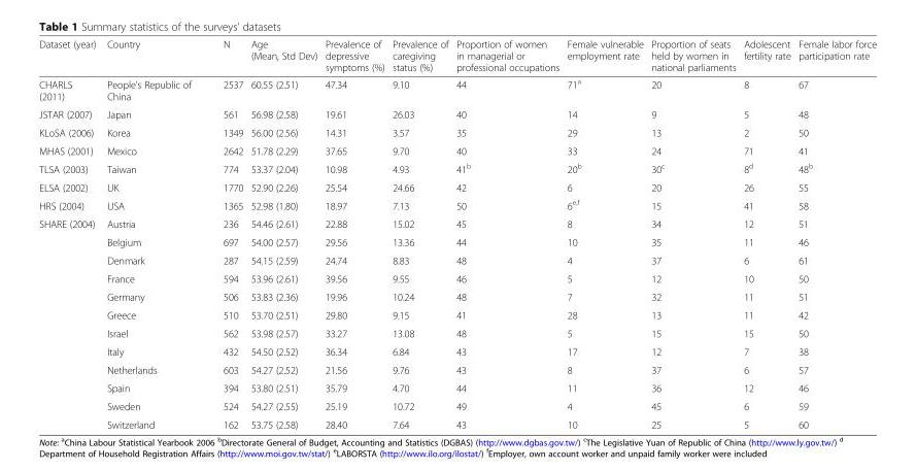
<table><thead><tr><td>Dataset (year)</td><td>Country</td><td>N</td><td>Age (Mean, Std Dev)</td><td>Prevalence of depressive symptoms (%)</td><td>Prevalence of caregiving status (%)</td><td>Proportion of women in managerial or professional occupations</td><td>Female vulnerable employment rate</td><td>Proportion of seats held by women in national parliaments</td><td>Adolescent fertility rate</td><td>Female labor force participation rate</td></tr></thead><tbody><tr><td>CHARLS (2011)</td><td>People’s Republic of China</td><td>2537</td><td>60.55 (2.51)</td><td>47.34</td><td>9.10</td><td>44</td><td>71<sup>a</sup></td><td>20</td><td>8</td><td>67</td></tr><tr><td>JSTAR (2007)</td><td>Japan</td><td>561</td><td>56.98 (2.58)</td><td>19.61</td><td>26.03</td><td>40</td><td>14</td><td>9</td><td>5</td><td>48</td></tr><tr><td>KLoSA (2006)</td><td>Korea</td><td>1349</td><td>56.00 (2.56)</td><td>14.31</td><td>3.57</td><td>35</td><td>29</td><td>13</td><td>2</td><td>50</td></tr><tr><td>MHAS (2001)</td><td>Mexico</td><td>2642</td><td>51.78 (2.29)</td><td>37.65</td><td>9.70</td><td>40</td><td>33</td><td>24</td><td>71</td><td>41</td></tr><tr><td>TLSA (2003)</td><td>Taiwan</td><td>774</td><td>53.37 (2.04)</td><td>10.98</td><td>4.93</td><td>41<sup>b</sup></td><td>20<sup>b</sup></td><td>30<sup>c</sup></td><td>8<sup>d</sup></td><td>48<sup>b</sup></td></tr><tr><td>ELSA (2002)</td><td>UK</td><td>1770</td><td>52.90 (2.26)</td><td>25.54</td><td>24.66</td><td>42</td><td>6</td><td>20</td><td>26</td><td>55</td></tr><tr><td>HRS (2004)</td><td>USA</td><td>1365</td><td>52.98 (1.80)</td><td>18.97</td><td>7.13</td><td>50</td><td>6<sup>e,f</sup></td><td>15</td><td>41</td><td>58</td></tr><tr><td rowspan="12">SHARE (2004)</td><td>Austria</td><td>236</td><td>54.46 (2.61)</td><td>22.88</td><td>15.02</td><td>45</td><td>8</td><td>34</td><td>12</td><td>51</td></tr><tr><td>Belgium</td><td>697</td><td>54.00 (2.57)</td><td>29.56</td><td>13.36</td><td>44</td><td>10</td><td>35</td><td>11</td><td>46</td></tr><tr><td>Denmark</td><td>287</td><td>54.15 (2.59)</td><td>24.74</td><td>8.83</td><td>48</td><td>4</td><td>37</td><td>6</td><td>61</td></tr><tr><td>France</td><td>594</td><td>53.96 (2.61)</td><td>39.56</td><td>9.55</td><td>46</td><td>5</td><td>12</td><td>10</td><td>50</td></tr><tr><td>Germany</td><td>506</td><td>53.83 (2.36)</td><td>19.96</td><td>10.24</td><td>48</td><td>7</td><td>32</td><td>11</td><td>51</td></tr><tr><td>Greece</td><td>510</td><td>53.70 (2.51)</td><td>29.80</td><td>9.15</td><td>41</td><td>28</td><td>13</td><td>11</td><td>42</td></tr><tr><td>Israel</td><td>562</td><td>53.98 (2.57)</td><td>33.27</td><td>13.08</td><td>48</td><td>5</td><td>15</td><td>15</td><td>50</td></tr><tr><td>Italy</td><td>432</td><td>54.50 (2.52)</td><td>36.34</td><td>6.84</td><td>43</td><td>17</td><td>12</td><td>7</td><td>38</td></tr><tr><td>Netherlands</td><td>603</td><td>54.27 (2.52)</td><td>21.56</td><td>9.76</td><td>43</td><td>8</td><td>37</td><td>6</td><td>57</td></tr><tr><td>Spain</td><td>394</td><td>53.80 (2.51)</td><td>35.79</td><td>4.70</td><td>44</td><td>11</td><td>36</td><td>12</td><td>46</td></tr><tr><td>Sweden</td><td>524</td><td>54.27 (2.55)</td><td>25.19</td><td>10.72</td><td>49</td><td>4</td><td>45</td><td>6</td><td>59</td></tr><tr><td>Switzerland</td><td>162</td><td>53.75 (2.58)</td><td>28.40</td><td>7.64</td><td>43</td><td>10</td><td>25</td><td>5</td><td>60</td></tr></tbody></table>